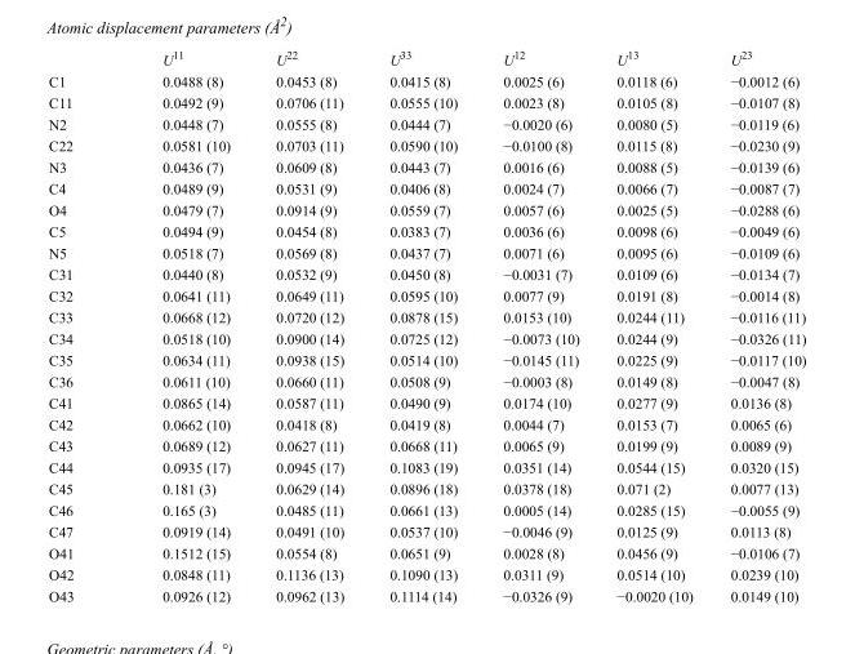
<table><thead><tr><td></td><td>U<sup>11</sup></td><td>U<sup>22</sup></td><td>U<sup>33</sup></td><td>U<sup>12</sup></td><td>U<sup>13</sup></td><td>U<sup>23</sup></td></tr></thead><tbody><tr><td>C1</td><td>0.0488 (8)</td><td>0.0453 (8)</td><td>0.0415 (8)</td><td>0.0025 (6)</td><td>0.0118 (6)</td><td>−0.0012 (6)</td></tr><tr><td>C11</td><td>0.0492 (9)</td><td>0.0706 (11)</td><td>0.0555 (10)</td><td>0.0023 (8)</td><td>0.0105 (8)</td><td>−0.0107 (8)</td></tr><tr><td>N2</td><td>0.0448 (7)</td><td>0.0555 (8)</td><td>0.0444 (7)</td><td>−0.0020 (6)</td><td>0.0080 (5)</td><td>−0.0119 (6)</td></tr><tr><td>C22</td><td>0.0581 (10)</td><td>0.0703 (11)</td><td>0.0590 (10)</td><td>−0.0100 (8)</td><td>0.0115 (8)</td><td>−0.0230 (9)</td></tr><tr><td>N3</td><td>0.0436 (7)</td><td>0.0609 (8)</td><td>0.0443 (7)</td><td>0.0016 (6)</td><td>0.0088 (5)</td><td>−0.0139 (6)</td></tr><tr><td>C4</td><td>0.0489 (9)</td><td>0.0531 (9)</td><td>0.0406 (8)</td><td>0.0024 (7)</td><td>0.0066 (7)</td><td>−0.0087 (7)</td></tr><tr><td>O4</td><td>0.0479 (7)</td><td>0.0914 (9)</td><td>0.0559 (7)</td><td>0.0057 (6)</td><td>0.0025 (5)</td><td>−0.0288 (6)</td></tr><tr><td>C5</td><td>0.0494 (9)</td><td>0.0454 (8)</td><td>0.0383 (7)</td><td>0.0036 (6)</td><td>0.0098 (6)</td><td>−0.0049 (6)</td></tr><tr><td>N5</td><td>0.0518 (7)</td><td>0.0569 (8)</td><td>0.0437 (7)</td><td>0.0071 (6)</td><td>0.0095 (6)</td><td>−0.0109 (6)</td></tr><tr><td>C31</td><td>0.0440 (8)</td><td>0.0532 (9)</td><td>0.0450 (8)</td><td>−0.0031 (7)</td><td>0.0109 (6)</td><td>−0.0134 (7)</td></tr><tr><td>C32</td><td>0.0641 (11)</td><td>0.0649 (11)</td><td>0.0595 (10)</td><td>0.0077 (9)</td><td>0.0191 (8)</td><td>−0.0014 (8)</td></tr><tr><td>C33</td><td>0.0668 (12)</td><td>0.0720 (12)</td><td>0.0878 (15)</td><td>0.0153 (10)</td><td>0.0244 (11)</td><td>−0.0116 (11)</td></tr><tr><td>C34</td><td>0.0518 (10)</td><td>0.0900 (14)</td><td>0.0725 (12)</td><td>−0.0073 (10)</td><td>0.0244 (9)</td><td>−0.0326 (11)</td></tr><tr><td>C35</td><td>0.0634 (11)</td><td>0.0938 (15)</td><td>0.0514 (10)</td><td>−0.0145 (11)</td><td>0.0225 (9)</td><td>−0.0117 (10)</td></tr><tr><td>C36</td><td>0.0611 (10)</td><td>0.0660 (11)</td><td>0.0508 (9)</td><td>−0.0003 (8)</td><td>0.0149 (8)</td><td>−0.0047 (8)</td></tr><tr><td>C41</td><td>0.0865 (14)</td><td>0.0587 (11)</td><td>0.0490 (9)</td><td>0.0174 (10)</td><td>0.0277 (9)</td><td>0.0136 (8)</td></tr><tr><td>C42</td><td>0.0662 (10)</td><td>0.0418 (8)</td><td>0.0419 (8)</td><td>0.0044 (7)</td><td>0.0153 (7)</td><td>0.0065 (6)</td></tr><tr><td>C43</td><td>0.0689 (12)</td><td>0.0627 (11)</td><td>0.0668 (11)</td><td>0.0065 (9)</td><td>0.0199 (9)</td><td>0.0089 (9)</td></tr><tr><td>C44</td><td>0.0935 (17)</td><td>0.0945 (17)</td><td>0.1083 (19)</td><td>0.0351 (14)</td><td>0.0544 (15)</td><td>0.0320 (15)</td></tr><tr><td>C45</td><td>0.181 (3)</td><td>0.0629 (14)</td><td>0.0896 (18)</td><td>0.0378 (18)</td><td>0.071 (2)</td><td>0.0077 (13)</td></tr><tr><td>C46</td><td>0.165 (3)</td><td>0.0485 (11)</td><td>0.0661 (13)</td><td>0.0005 (14)</td><td>0.0285 (15)</td><td>−0.0055 (9)</td></tr><tr><td>C47</td><td>0.0919 (14)</td><td>0.0491 (10)</td><td>0.0537 (10)</td><td>−0.0046 (9)</td><td>0.0125 (9)</td><td>0.0113 (8)</td></tr><tr><td>O41</td><td>0.1512 (15)</td><td>0.0554 (8)</td><td>0.0651 (9)</td><td>0.0028 (8)</td><td>0.0456 (9)</td><td>−0.0106 (7)</td></tr><tr><td>O42</td><td>0.0848 (11)</td><td>0.1136 (13)</td><td>0.1090 (13)</td><td>0.0311 (9)</td><td>0.0514 (10)</td><td>0.0239 (10)</td></tr><tr><td>O43</td><td>0.0926 (12)</td><td>0.0962 (13)</td><td>0.1114 (14)</td><td>−0.0326 (9)</td><td>−0.0020 (10)</td><td>0.0149 (10)</td></tr></tbody></table>